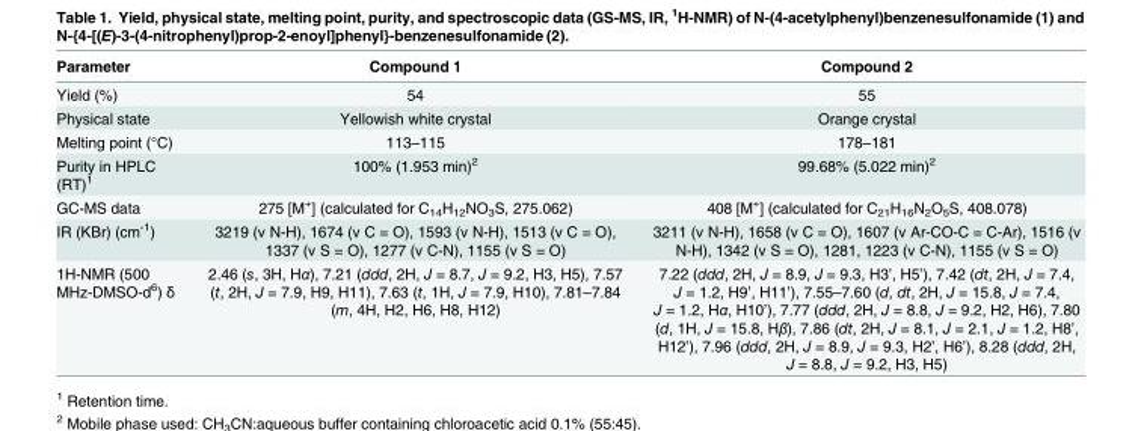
<table><thead><tr><td>Parameter</td><td>Compound 1</td><td>Compound 2</td></tr></thead><tbody><tr><td>Yield (%)</td><td>54</td><td>55</td></tr><tr><td>Physical state</td><td>Yellowish white crystal</td><td>Orange crystal</td></tr><tr><td>Melting point (°C)</td><td>113–115</td><td>178–181</td></tr><tr><td>Purity in HPLC (RT)<sup>1</sup></td><td>100% (1.953 min)<sup>2</sup></td><td>99.68% (5.022 min)<sup>2</sup></td></tr><tr><td>GC-MS data</td><td>275 [M<sup>+</sup>] (calculated for C<sub>14</sub>H<sub>12</sub>NO<sub>3</sub>S, 275.062)</td><td>408 [M<sup>+</sup>] (calculated for C<sub>21</sub>H<sub>16</sub>N<sub>2</sub>O<sub>5</sub>S, 408.078)</td></tr><tr><td>IR (KBr) (cm<sup>-1</sup>)</td><td>3219 (ν N-H), 1674 (ν C = O), 1593 (ν N-H), 1513 (ν C = O), 1337 (ν S = O), 1277 (ν C-N), 1155 (ν S = O)</td><td>3211 (ν N-H), 1658 (ν C = O), 1607 (ν Ar-CO-C = C-Ar), 1516 (ν N-H), 1342 (ν S = O), 1281, 1223 (ν C-N), 1155 (ν S = O)</td></tr><tr><td>1H-NMR (500 MHz-DMSO-d<sup>6</sup>) δ</td><td>2.46 (s, 3H, Hα), 7.21 (ddd, 2H, J = 8.7, J = 9.2, H3, H5), 7.57 (t, 2H, J = 7.9, H9, H11), 7.63 (t, 1H, J = 7.9, H10), 7.81–7.84 (m, 4H, H2, H6, H8, H12)</td><td>7.22 (ddd, 2H, J = 8.9, J = 9.3, H3’, H5’), 7.42 (dt, 2H, J = 7.4, J = 1.2, H9’, H11’), 7.55–7.60 (d, dt, 2H, J = 15.8, J = 7.4, J = 1.2, Hα, H10’), 7.77 (ddd, 2H, J = 8.8, J = 9.2, H2, H6), 7.80 (d, 1H, J = 15.8, Hβ), 7.86 (dt, 2H, J = 8.1, J = 2.1, J = 1.2, H8’, H12’), 7.96 (ddd, 2H, J = 8.9, J = 9.3, H2’, H6’), 8.28 (ddd, 2H, J = 8.8, J = 9.2, H3, H5)</td></tr></tbody></table>